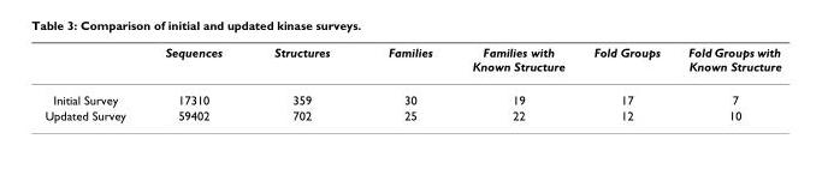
<table><thead><tr><td></td><td>Sequences</td><td>Structures</td><td>Families</td><td>Families with Known Structure</td><td>Fold Groups</td><td>Fold Groups with Known Structure</td></tr></thead><tbody><tr><td>Initial Survey</td><td>17310</td><td>359</td><td>30</td><td>19</td><td>17</td><td>7</td></tr><tr><td>Updated Survey</td><td>59402</td><td>702</td><td>25</td><td>22</td><td>12</td><td>10</td></tr></tbody></table>